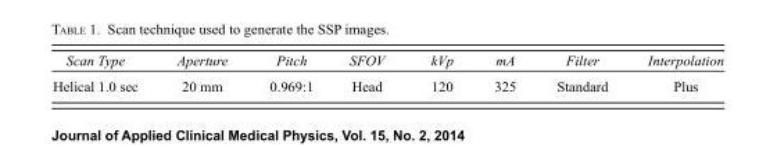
<table><thead><tr><td>Scan Type</td><td>Aperture</td><td>Pitch</td><td>SFOV</td><td>kVp</td><td>mA</td><td>Filter</td><td>Interpolation</td></tr></thead><tbody><tr><td>Helical 1.0 sec</td><td>20 mm</td><td>0.969:1</td><td>Head</td><td>120</td><td>325</td><td>Standard</td><td>Plus</td></tr></tbody></table>